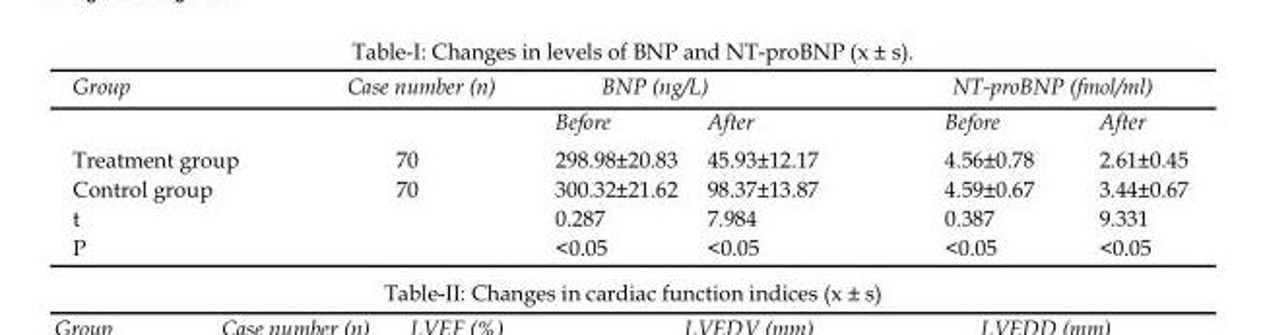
<table><thead><tr><td rowspan="2">Group</td><td rowspan="2">Case number (n)</td><td colspan="2">BNP (ng/L)</td><td colspan="2">NT-proBNP (fmol/ml)</td></tr><tr><td>Before</td><td>After</td><td>Before</td><td>After</td></tr></thead><tbody><tr><td>Treatment group</td><td>70</td><td>298.98±20.83</td><td>45.93±12.17</td><td>4.56±0.78</td><td>2.61±0.45</td></tr><tr><td>Control group</td><td>70</td><td>300.32±21.62</td><td>98.37±13.87</td><td>4.59±0.67</td><td>3.44±0.67</td></tr><tr><td>t</td><td></td><td>0.287</td><td>7.984</td><td>0.387</td><td>9.331</td></tr><tr><td>P</td><td></td><td>&lt;0.05</td><td>&lt;0.05</td><td>&lt;0.05</td><td>&lt;0.05</td></tr></tbody></table>